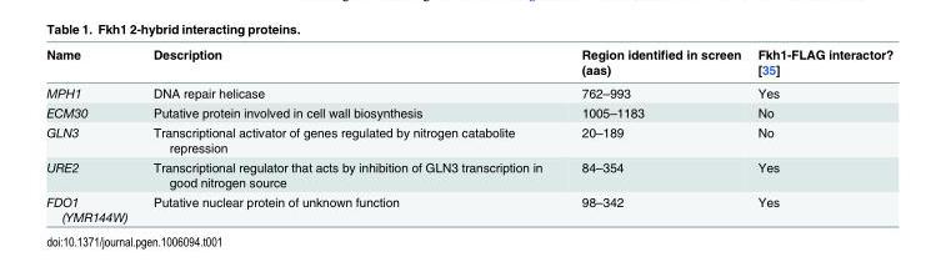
<table><thead><tr><td>Name</td><td>Description</td><td>Region identified in screen (aas)</td><td>Fkh1-FLAG interactor? [35]</td></tr></thead><tbody><tr><td>MPH1</td><td>DNA repair helicase</td><td>762–993</td><td>Yes</td></tr><tr><td>ECM30</td><td>Putative protein involved in cell wall biosynthesis</td><td>1005–1183</td><td>No</td></tr><tr><td>GLN3</td><td>Transcriptional activator of genes regulated by nitrogen catabolite repression</td><td>20–189</td><td>No</td></tr><tr><td>URE2</td><td>Transcriptional regulator that acts by inhibition of GLN3 transcription in good nitrogen source</td><td>84–354</td><td>Yes</td></tr><tr><td>FDO1 (YMR144W)</td><td>Putative nuclear protein of unknown function</td><td>98–342</td><td>Yes</td></tr></tbody></table>